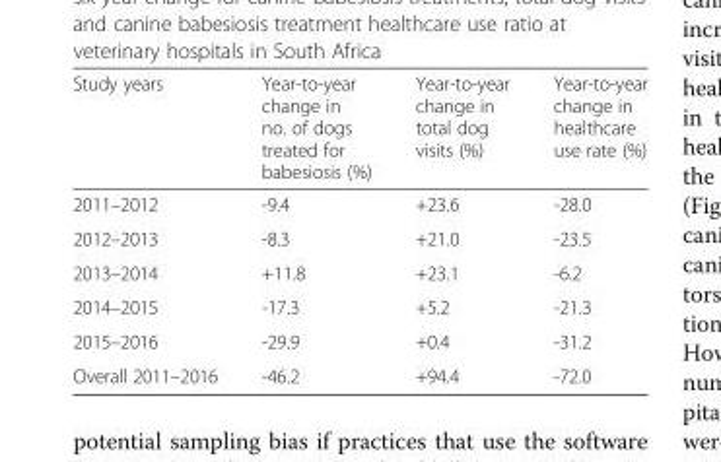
<table><thead><tr><td>Study years</td><td>Year-to-year change in no. of dogs treated for babesiosis (%)</td><td>Year-to-year change in total dog visits (%)</td><td>Year-to-year change in healthcare use rate (%)</td></tr></thead><tbody><tr><td>2011–2012</td><td>-9.4</td><td>+23.6</td><td>-28.0</td></tr><tr><td>2012–2013</td><td>-8.3</td><td>+21.0</td><td>-23.5</td></tr><tr><td>2013–2014</td><td>+11.8</td><td>+23.1</td><td>-6.2</td></tr><tr><td>2014–2015</td><td>-17.3</td><td>+5.2</td><td>-21.3</td></tr><tr><td>2015–2016</td><td>-29.9</td><td>+0.4</td><td>-31.2</td></tr><tr><td>Overall 2011–2016</td><td>-46.2</td><td>+94.4</td><td>-72.0</td></tr></tbody></table>